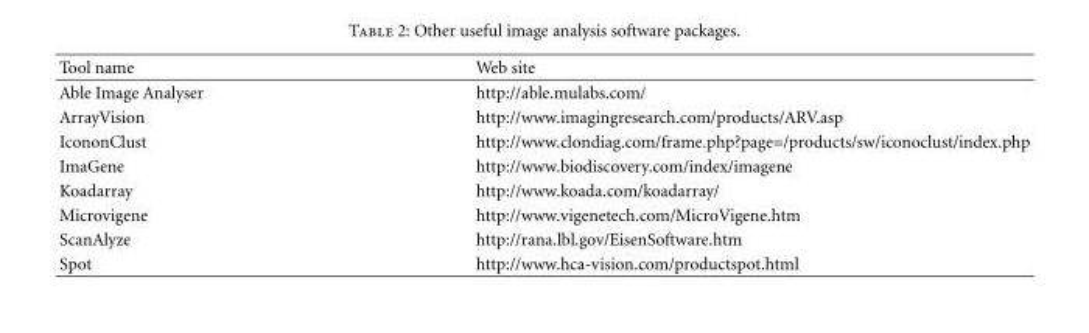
<table><thead><tr><td>Tool name</td><td>Web site</td></tr></thead><tbody><tr><td>Able Image Analyser</td><td>http://able.mulabs.com/</td></tr><tr><td>ArrayVision</td><td>http://www.imagingresearch.com/products/ARV.asp</td></tr><tr><td>IcononClust</td><td>http://www.clondiag.com/frame.php?page=/products/sw/iconoclust/index.php</td></tr><tr><td>ImaGene</td><td>http://www.biodiscovery.com/index/imagene</td></tr><tr><td>Koadarray</td><td>http://www.koada.com/koadarray/</td></tr><tr><td>Microvigene</td><td>http://www.vigenetech.com/MicroVigene.htm</td></tr><tr><td>ScanAlyze</td><td>http://rana.lbl.gov/EisenSoftware.htm</td></tr><tr><td>Spot</td><td>http://www.hca-vision.com/productspot.html</td></tr></tbody></table>